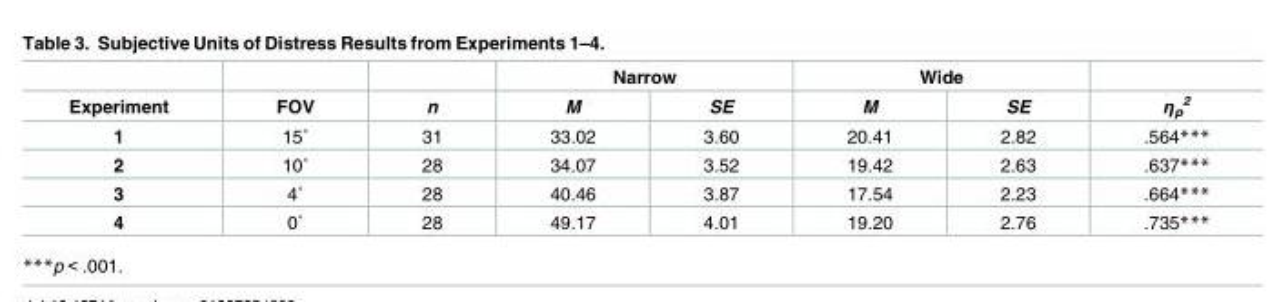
<table><thead><tr><td rowspan="2">Experiment</td><td rowspan="2">FOV</td><td rowspan="2">n</td><td colspan="2">Narrow</td><td colspan="2">Wide</td><td rowspan="2">η<sub>p</sub> <sup>2</sup></td></tr><tr><td>M</td><td>SE</td><td>M</td><td>SE</td></tr></thead><tbody><tr><td>1</td><td>15˚</td><td>31</td><td>33.02</td><td>3.60</td><td>20.41</td><td>2.82</td><td>.564***</td></tr><tr><td>2</td><td>10˚</td><td>28</td><td>34.07</td><td>3.52</td><td>19.42</td><td>2.63</td><td>.637***</td></tr><tr><td>3</td><td>4˚</td><td>28</td><td>40.46</td><td>3.87</td><td>17.54</td><td>2.23</td><td>.664***</td></tr><tr><td>4</td><td>0˚</td><td>28</td><td>49.17</td><td>4.01</td><td>19.20</td><td>2.76</td><td>.735***</td></tr></tbody></table>